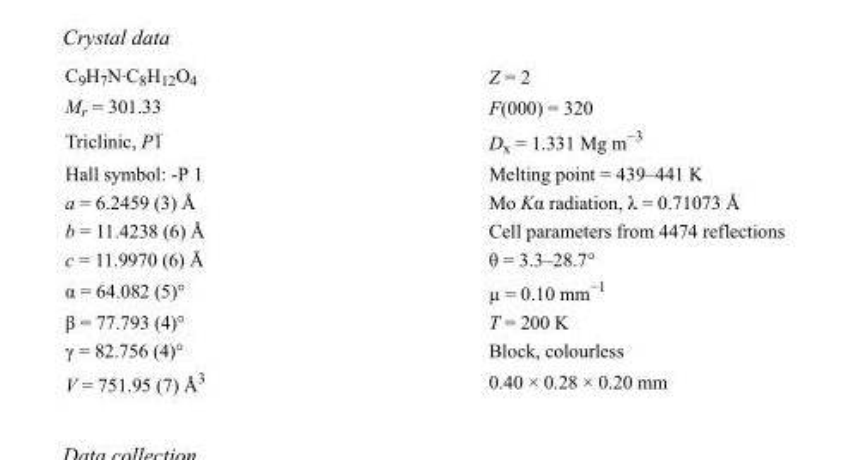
<table><tbody><tr><td>C<sub>9</sub>H<sub>7</sub>N·C<sub>8</sub>H<sub>12</sub>O<sub>4</sub></td><td>Z = 2</td></tr><tr><td>M<sub>r</sub> = 301.33</td><td>F(000) = 320</td></tr><tr><td>Triclinic, P1</td><td>D<sub>x</sub> = 1.331 Mg m<sup>−3</sup></td></tr><tr><td>Hall symbol: -P 1</td><td>Melting point = 439–441 K</td></tr><tr><td>a = 6.2459 (3) Å</td><td>Mo Kα radiation, λ = 0.71073 Å</td></tr><tr><td>b = 11.4238 (6) Å</td><td>Cell parameters from 4474 reflections</td></tr><tr><td>c = 11.9970 (6) Å</td><td>θ = 3.3–28.7°</td></tr><tr><td>α = 64.082 (5)°</td><td>µ = 0.10 mm<sup>−1</sup></td></tr><tr><td>β = 77.793 (4)°</td><td>T = 200 K</td></tr><tr><td>γ = 82.756 (4)°</td><td>Block, colourless</td></tr><tr><td>V = 751.95 (7) Å<sup>3</sup></td><td>0.40 × 0.28 × 0.20 mm</td></tr></tbody></table>